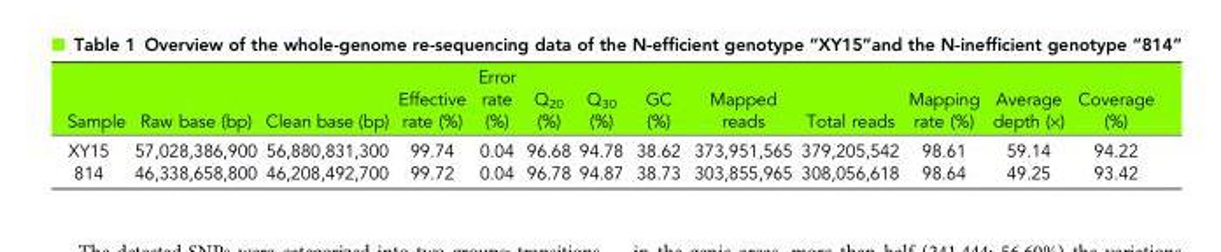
<table><thead><tr><td>Sample</td><td>Raw base (bp)</td><td>Clean base (bp)</td><td>Effective rate (%)</td><td>Error rate (%)</td><td>Q<sub>20</sub> (%)</td><td>Q<sub>30</sub> (%)</td><td>GC (%)</td><td>Mapped reads</td><td>Total reads</td><td>Mapping rate (%)</td><td>Average depth (×)</td><td>Coverage (%)</td></tr></thead><tbody><tr><td>XY15</td><td>57,028,386,900</td><td>56,880,831,300</td><td>99.74</td><td>0.04</td><td>96.68</td><td>94.78</td><td>38.62</td><td>373,951,565</td><td>379,205,542</td><td>98.61</td><td>59.14</td><td>94.22</td></tr><tr><td>814</td><td>46,338,658,800</td><td>46,208,492,700</td><td>99.72</td><td>0.04</td><td>96.78</td><td>94.87</td><td>38.73</td><td>303,855,965</td><td>308,056,618</td><td>98.64</td><td>49.25</td><td>93.42</td></tr></tbody></table>